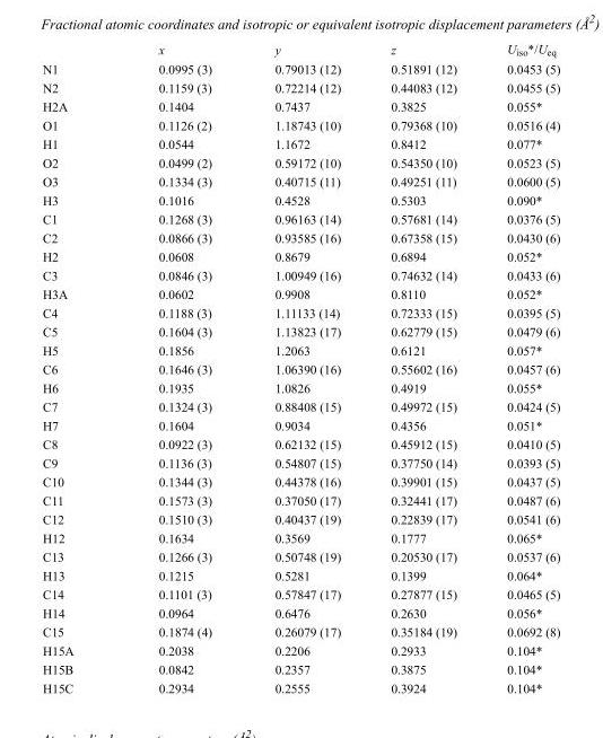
<table><thead><tr><td></td><td>x</td><td>y</td><td>z</td><td>U<sub>iso</sub>*/U<sub>eq</sub></td></tr></thead><tbody><tr><td>N1</td><td>0.0995 (3)</td><td>0.79013 (12)</td><td>0.51891 (12)</td><td>0.0453 (5)</td></tr><tr><td>N2</td><td>0.1159 (3)</td><td>0.72214 (12)</td><td>0.44083 (12)</td><td>0.0455 (5)</td></tr><tr><td>H2A</td><td>0.1404</td><td>0.7437</td><td>0.3825</td><td>0.055*</td></tr><tr><td>O1</td><td>0.1126 (2)</td><td>1.18743 (10)</td><td>0.79368 (10)</td><td>0.0516 (4)</td></tr><tr><td>H1</td><td>0.0544</td><td>1.1672</td><td>0.8412</td><td>0.077*</td></tr><tr><td>O2</td><td>0.0499 (2)</td><td>0.59172 (10)</td><td>0.54350 (10)</td><td>0.0523 (5)</td></tr><tr><td>O3</td><td>0.1334 (3)</td><td>0.40715 (11)</td><td>0.49251 (11)</td><td>0.0600 (5)</td></tr><tr><td>H3</td><td>0.1016</td><td>0.4528</td><td>0.5303</td><td>0.090*</td></tr><tr><td>C1</td><td>0.1268 (3)</td><td>0.96163 (14)</td><td>0.57681 (14)</td><td>0.0376 (5)</td></tr><tr><td>C2</td><td>0.0866 (3)</td><td>0.93585 (16)</td><td>0.67358 (15)</td><td>0.0430 (6)</td></tr><tr><td>H2</td><td>0.0608</td><td>0.8679</td><td>0.6894</td><td>0.052*</td></tr><tr><td>C3</td><td>0.0846 (3)</td><td>1.00949 (16)</td><td>0.74632 (14)</td><td>0.0433 (6)</td></tr><tr><td>H3A</td><td>0.0602</td><td>0.9908</td><td>0.8110</td><td>0.052*</td></tr><tr><td>C4</td><td>0.1188 (3)</td><td>1.11133 (14)</td><td>0.72333 (15)</td><td>0.0395 (5)</td></tr><tr><td>C5</td><td>0.1604 (3)</td><td>1.13823 (17)</td><td>0.62779 (15)</td><td>0.0479 (6)</td></tr><tr><td>H5</td><td>0.1856</td><td>1.2063</td><td>0.6121</td><td>0.057*</td></tr><tr><td>C6</td><td>0.1646 (3)</td><td>1.06390 (16)</td><td>0.55602 (16)</td><td>0.0457 (6)</td></tr><tr><td>H6</td><td>0.1935</td><td>1.0826</td><td>0.4919</td><td>0.055*</td></tr><tr><td>C7</td><td>0.1324 (3)</td><td>0.88408 (15)</td><td>0.49972 (15)</td><td>0.0424 (5)</td></tr><tr><td>H7</td><td>0.1604</td><td>0.9034</td><td>0.4356</td><td>0.051*</td></tr><tr><td>C8</td><td>0.0922 (3)</td><td>0.62132 (15)</td><td>0.45912 (15)</td><td>0.0410 (5)</td></tr><tr><td>C9</td><td>0.1136 (3)</td><td>0.54807 (15)</td><td>0.37750 (14)</td><td>0.0393 (5)</td></tr><tr><td>C10</td><td>0.1344 (3)</td><td>0.44378 (16)</td><td>0.39901 (15)</td><td>0.0437 (5)</td></tr><tr><td>C11</td><td>0.1573 (3)</td><td>0.37050 (17)</td><td>0.32441 (17)</td><td>0.0487 (6)</td></tr><tr><td>C12</td><td>0.1510 (3)</td><td>0.40437 (19)</td><td>0.22839 (17)</td><td>0.0541 (6)</td></tr><tr><td>H12</td><td>0.1634</td><td>0.3569</td><td>0.1777</td><td>0.065*</td></tr><tr><td>C13</td><td>0.1266 (3)</td><td>0.50748 (19)</td><td>0.20530 (17)</td><td>0.0537 (6)</td></tr><tr><td>H13</td><td>0.1215</td><td>0.5281</td><td>0.1399</td><td>0.064*</td></tr><tr><td>C14</td><td>0.1101 (3)</td><td>0.57847 (17)</td><td>0.27877 (15)</td><td>0.0465 (5)</td></tr><tr><td>H14</td><td>0.0964</td><td>0.6476</td><td>0.2630</td><td>0.056*</td></tr><tr><td>C15</td><td>0.1874 (4)</td><td>0.26079 (17)</td><td>0.35184 (19)</td><td>0.0692 (8)</td></tr><tr><td>H15A</td><td>0.2038</td><td>0.2206</td><td>0.2933</td><td>0.104*</td></tr><tr><td>H15B</td><td>0.0842</td><td>0.2357</td><td>0.3875</td><td>0.104*</td></tr><tr><td>H15C</td><td>0.2934</td><td>0.2555</td><td>0.3924</td><td>0.104*</td></tr></tbody></table>